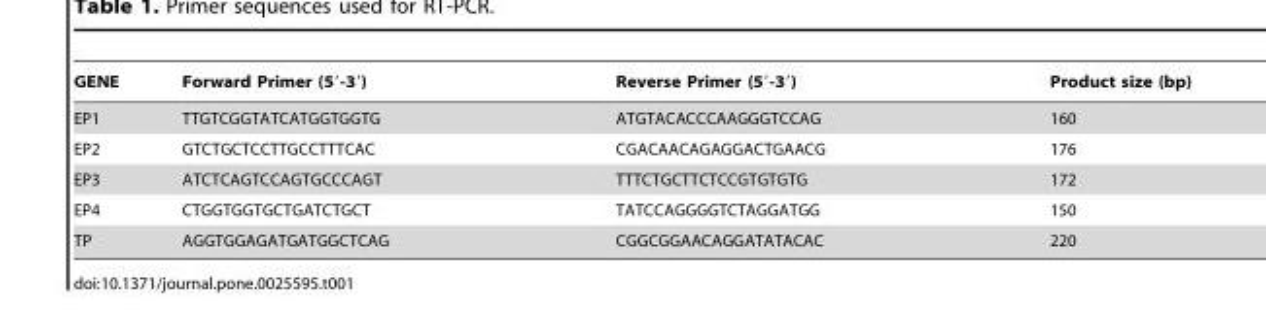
<table><thead><tr><td>GENE</td><td>Forward Primer (5′-3′)</td><td>Reverse Primer (5′-3′)</td><td>Product size (bp)</td></tr></thead><tbody><tr><td>EP1</td><td>TTGTCGGTATCATGGTGGTG</td><td>ATGTACACCCAAGGGTCCAG</td><td>160</td></tr><tr><td>EP2</td><td>GTCTGCTCCTTGCCTTTCAC</td><td>CGACAACAGAGGACTGAACG</td><td>176</td></tr><tr><td>EP3</td><td>ATCTCAGTCCAGTGCCCAGT</td><td>TTTCTGCTTCTCCGTGTGTG</td><td>172</td></tr><tr><td>EP4</td><td>CTGGTGGTGCTGATCTGCT</td><td>TATCCAGGGGTCTAGGATGG</td><td>150</td></tr><tr><td>TP</td><td>AGGTGGAGATGATGGCTCAG</td><td>CGGCGGAACAGGATATACAC</td><td>220</td></tr></tbody></table>